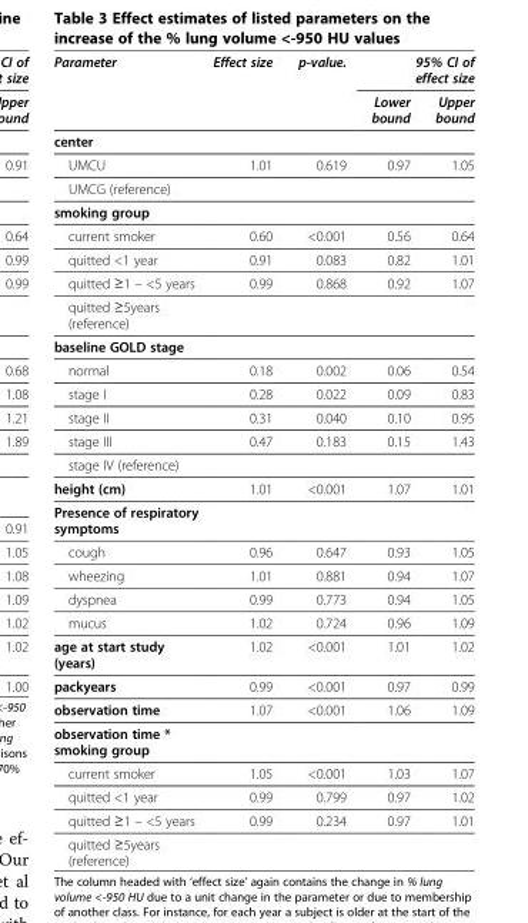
<table><thead><tr><td rowspan="2">Parameter</td><td rowspan="2">Effect size</td><td rowspan="2">p-value.</td><td colspan="2">95% CI of effect size</td></tr><tr><td>Lower bound</td><td>Upper bound</td></tr></thead><tbody><tr><td colspan="5">center</td></tr><tr><td>UMCU</td><td>1.01</td><td>0.619</td><td>0.97</td><td>1.05</td></tr><tr><td colspan="5">UMCG (reference)</td></tr><tr><td colspan="5">smoking group</td></tr><tr><td>current smoker</td><td>0.60</td><td>&lt;0.001</td><td>0.56</td><td>0.64</td></tr><tr><td>quitted &lt;1 year</td><td>0.91</td><td>0.083</td><td>0.82</td><td>1.01</td></tr><tr><td>quitted ≥1 – &lt;5 years</td><td>0.99</td><td>0.868</td><td>0.92</td><td>1.07</td></tr><tr><td colspan="5">quitted ≥5years (reference)</td></tr><tr><td colspan="5">baseline GOLD stage</td></tr><tr><td>normal</td><td>0.18</td><td>0.002</td><td>0.06</td><td>0.54</td></tr><tr><td>stage I</td><td>0.28</td><td>0.022</td><td>0.09</td><td>0.83</td></tr><tr><td>stage II</td><td>0.31</td><td>0.040</td><td>0.10</td><td>0.95</td></tr><tr><td>stage III</td><td>0.47</td><td>0.183</td><td>0.15</td><td>1.43</td></tr><tr><td colspan="5">stage IV (reference)</td></tr><tr><td>height (cm)</td><td>1.01</td><td>&lt;0.001</td><td>1.07</td><td>1.01</td></tr><tr><td colspan="5">Presence of respiratory symptoms</td></tr><tr><td>cough</td><td>0.96</td><td>0.647</td><td>0.93</td><td>1.05</td></tr><tr><td>wheezing</td><td>1.01</td><td>0.881</td><td>0.94</td><td>1.07</td></tr><tr><td>dyspnea</td><td>0.99</td><td>0.773</td><td>0.94</td><td>1.05</td></tr><tr><td>mucus</td><td>1.02</td><td>0.724</td><td>0.96</td><td>1.09</td></tr><tr><td>age at start study (years)</td><td>1.02</td><td>&lt;0.001</td><td>1.01</td><td>1.02</td></tr><tr><td>packyears</td><td>0.99</td><td>&lt;0.001</td><td>0.97</td><td>0.99</td></tr><tr><td>observation time</td><td>1.07</td><td>&lt;0.001</td><td>1.06</td><td>1.09</td></tr><tr><td colspan="5">observation time * smoking group</td></tr><tr><td>current smoker</td><td>1.05</td><td>&lt;0.001</td><td>1.03</td><td>1.07</td></tr><tr><td>quitted &lt;1 year</td><td>0.99</td><td>0.799</td><td>0.97</td><td>1.02</td></tr><tr><td>quitted ≥1 – &lt;5 years</td><td>0.99</td><td>0.234</td><td>0.97</td><td>1.01</td></tr><tr><td>quitted ≥5years (reference)</td><td></td><td></td><td></td><td></td></tr></tbody></table>